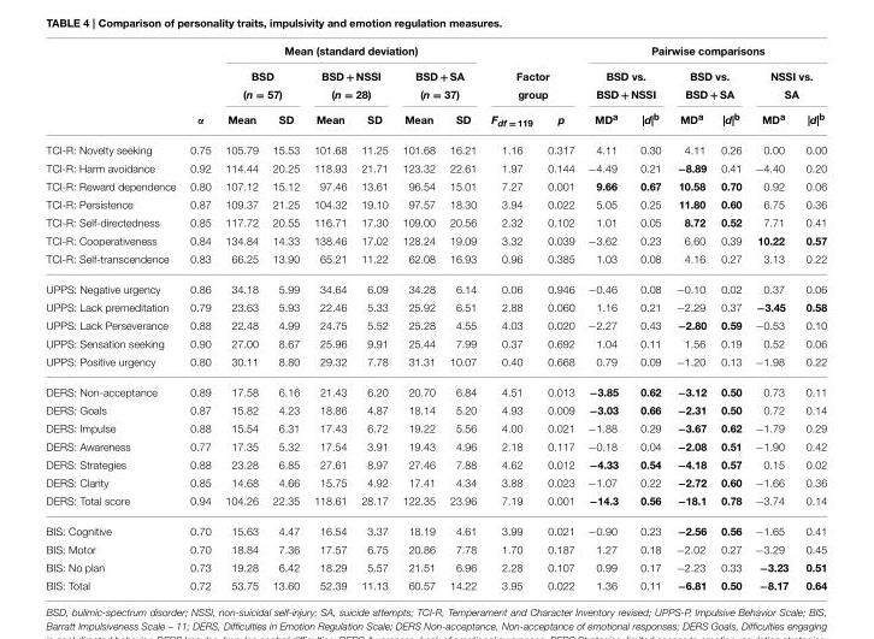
<table><thead><tr><td rowspan="3"></td><td rowspan="3">α</td><td colspan="6">Mean (standard deviation)</td><td></td><td></td><td colspan="6">Pairwise comparisons</td></tr><tr><td colspan="2">BSD (n = 57)</td><td colspan="2">BSD + NSSI (n = 28)</td><td colspan="2">BSD + SA (n = 37)</td><td colspan="2">Factor group</td><td colspan="2">BSD vs. BSD + NSSI</td><td colspan="2">BSD vs. BSD + SA</td><td colspan="2">NSSI vs. SA</td></tr><tr><td>Mean</td><td>SD</td><td>Mean</td><td>SD</td><td>Mean</td><td>SD</td><td>F<sub>df</sub> = 119</td><td>p</td><td>MD<sup>a</sup></td><td>|d|<sup>b</sup></td><td>MD<sup>a</sup></td><td>|d|<sup>b</sup></td><td>MD<sup>a</sup></td><td>|d|<sup>b</sup></td></tr></thead><tbody><tr><td>TCI-R: Novelty seeking</td><td>0.75</td><td>105.79</td><td>15.53</td><td>101.68</td><td>11.25</td><td>101.68</td><td>16.21</td><td>1.16</td><td>0.317</td><td>4.11</td><td>0.30</td><td>4.11</td><td>0.26</td><td>0.00</td><td>0.00</td></tr><tr><td>TCI-R: Harm avoidance</td><td>0.92</td><td>114.44</td><td>20.25</td><td>118.93</td><td>21.71</td><td>123.32</td><td>22.61</td><td>1.97</td><td>0.144</td><td>−4.49</td><td>0.21</td><td>−8.89</td><td>0.41</td><td>−4.40</td><td>0.20</td></tr><tr><td>TCI-R: Reward dependence</td><td>0.80</td><td>107.12</td><td>15.12</td><td>97.46</td><td>13.61</td><td>96.54</td><td>15.01</td><td>7.27</td><td>0.001</td><td>9.66</td><td>0.67</td><td>10.58</td><td>0.70</td><td>0.92</td><td>0.06</td></tr><tr><td>TCI-R: Persistence</td><td>0.87</td><td>109.37</td><td>21.25</td><td>104.32</td><td>19.10</td><td>97.57</td><td>18.30</td><td>3.94</td><td>0.022</td><td>5.05</td><td>0.25</td><td>11.80</td><td>0.60</td><td>6.75</td><td>0.36</td></tr><tr><td>TCI-R: Self-directedness</td><td>0.85</td><td>117.72</td><td>20.55</td><td>116.71</td><td>17.30</td><td>109.00</td><td>20.56</td><td>2.32</td><td>0.102</td><td>1.01</td><td>0.05</td><td>8.72</td><td>0.52</td><td>7.71</td><td>0.41</td></tr><tr><td>TCI-R: Cooperativeness</td><td>0.84</td><td>134.84</td><td>14.33</td><td>138.46</td><td>17.02</td><td>128.24</td><td>19.09</td><td>3.32</td><td>0.039</td><td>−3.62</td><td>0.23</td><td>6.60</td><td>0.39</td><td>10.22</td><td>0.57</td></tr><tr><td>TCI-R: Self-transcendence</td><td>0.83</td><td>66.25</td><td>13.90</td><td>65.21</td><td>11.22</td><td>62.08</td><td>16.93</td><td>0.96</td><td>0.385</td><td>1.03</td><td>0.08</td><td>4.16</td><td>0.27</td><td>3.13</td><td>0.22</td></tr><tr><td>UPPS: Negative urgency</td><td>0.86</td><td>34.18</td><td>5.99</td><td>34.64</td><td>6.09</td><td>34.28</td><td>6.14</td><td>0.06</td><td>0.946</td><td>−0.46</td><td>0.08</td><td>−0.10</td><td>0.02</td><td>0.37</td><td>0.06</td></tr><tr><td>UPPS: Lack premeditation</td><td>0.79</td><td>23.63</td><td>5.93</td><td>22.46</td><td>5.33</td><td>25.92</td><td>6.51</td><td>2.88</td><td>0.060</td><td>1.16</td><td>0.21</td><td>−2.29</td><td>0.37</td><td>−3.45</td><td>0.58</td></tr><tr><td>UPPS: Lack Perseverance</td><td>0.88</td><td>22.48</td><td>4.99</td><td>24.75</td><td>5.52</td><td>25.28</td><td>4.55</td><td>4.03</td><td>0.020</td><td>−2.27</td><td>0.43</td><td>−2.80</td><td>0.59</td><td>−0.53</td><td>0.10</td></tr><tr><td>UPPS: Sensation seeking</td><td>0.90</td><td>27.00</td><td>8.67</td><td>25.96</td><td>9.91</td><td>25.44</td><td>7.99</td><td>0.37</td><td>0.692</td><td>1.04</td><td>0.11</td><td>1.56</td><td>0.19</td><td>0.52</td><td>0.06</td></tr><tr><td>UPPS: Positive urgency</td><td>0.80</td><td>30.11</td><td>8.80</td><td>29.32</td><td>7.78</td><td>31.31</td><td>10.07</td><td>0.40</td><td>0.668</td><td>0.79</td><td>0.09</td><td>−1.20</td><td>0.13</td><td>−1.98</td><td>0.22</td></tr><tr><td>DERS: Non-acceptance</td><td>0.89</td><td>17.58</td><td>6.16</td><td>21.43</td><td>6.20</td><td>20.70</td><td>6.84</td><td>4.51</td><td>0.013</td><td>−3.85</td><td>0.62</td><td>−3.12</td><td>0.50</td><td>0.73</td><td>0.11</td></tr><tr><td>DERS: Goals</td><td>0.87</td><td>15.82</td><td>4.23</td><td>18.86</td><td>4.87</td><td>18.14</td><td>5.20</td><td>4.93</td><td>0.009</td><td>−3.03</td><td>0.66</td><td>−2.31</td><td>0.50</td><td>0.72</td><td>0.14</td></tr><tr><td>DERS: Impulse</td><td>0.88</td><td>15.54</td><td>6.31</td><td>17.43</td><td>6.72</td><td>19.22</td><td>5.56</td><td>4.00</td><td>0.021</td><td>−1.88</td><td>0.29</td><td>−3.67</td><td>0.62</td><td>−1.79</td><td>0.29</td></tr><tr><td>DERS: Awareness</td><td>0.77</td><td>17.35</td><td>5.32</td><td>17.54</td><td>3.91</td><td>19.43</td><td>4.96</td><td>2.18</td><td>0.117</td><td>−0.18</td><td>0.04</td><td>−2.08</td><td>0.51</td><td>−1.90</td><td>0.42</td></tr><tr><td>DERS: Strategies</td><td>0.88</td><td>23.28</td><td>6.85</td><td>27.61</td><td>8.97</td><td>27.46</td><td>7.88</td><td>4.62</td><td>0.012</td><td>−4.33</td><td>0.54</td><td>−4.18</td><td>0.57</td><td>0.15</td><td>0.02</td></tr><tr><td>DERS: Clarity</td><td>0.85</td><td>14.68</td><td>4.66</td><td>15.75</td><td>4.92</td><td>17.41</td><td>4.34</td><td>3.88</td><td>0.023</td><td>−1.07</td><td>0.22</td><td>−2.72</td><td>0.60</td><td>−1.66</td><td>0.36</td></tr><tr><td>DERS: Total score</td><td>0.94</td><td>104.26</td><td>22.35</td><td>118.61</td><td>28.17</td><td>122.35</td><td>23.96</td><td>7.19</td><td>0.001</td><td>−14.3</td><td>0.56</td><td>−18.1</td><td>0.78</td><td>−3.74</td><td>0.14</td></tr><tr><td>BIS: Cognitive</td><td>0.70</td><td>15.63</td><td>4.47</td><td>16.54</td><td>3.37</td><td>18.19</td><td>4.61</td><td>3.99</td><td>0.021</td><td>−0.90</td><td>0.23</td><td>−2.56</td><td>0.56</td><td>−1.65</td><td>0.41</td></tr><tr><td>BIS: Motor</td><td>0.70</td><td>18.84</td><td>7.36</td><td>17.57</td><td>6.75</td><td>20.86</td><td>7.78</td><td>1.70</td><td>0.187</td><td>1.27</td><td>0.18</td><td>−2.02</td><td>0.27</td><td>−3.29</td><td>0.45</td></tr><tr><td>BIS: No plan</td><td>0.73</td><td>19.28</td><td>6.42</td><td>18.29</td><td>5.57</td><td>21.51</td><td>6.96</td><td>2.28</td><td>0.107</td><td>0.99</td><td>0.17</td><td>−2.23</td><td>0.33</td><td>−3.23</td><td>0.51</td></tr><tr><td>BIS: Total</td><td>0.72</td><td>53.75</td><td>13.60</td><td>52.39</td><td>11.13</td><td>60.57</td><td>14.22</td><td>3.95</td><td>0.022</td><td>1.36</td><td>0.11</td><td>−6.81</td><td>0.50</td><td>−8.17</td><td>0.64</td></tr></tbody></table>